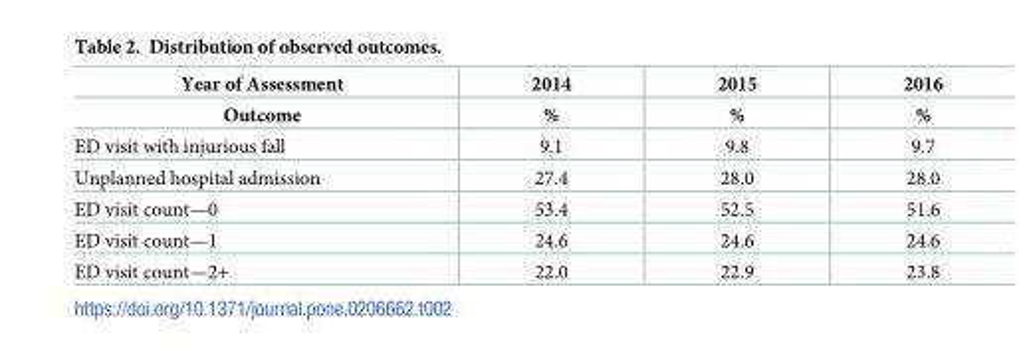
<table><thead><tr><td rowspan="2">Year of Assessment Outcome</td><td rowspan="2">2014 %</td><td rowspan="2">2015 %</td><td rowspan="2">2016 %</td></tr><tr></tr></thead><tbody><tr><td>ED visit with injurious fall</td><td>9.1</td><td>9.8</td><td>9.7</td></tr><tr><td>Unplanned hospital admission</td><td>27.4</td><td>28.0</td><td>28.0</td></tr><tr><td>ED visit count—0</td><td>53.4</td><td>52.5</td><td>51.6</td></tr><tr><td>ED visit count—1</td><td>24.6</td><td>24.6</td><td>24.6</td></tr><tr><td>ED visit count—2+</td><td>22.0</td><td>22.9</td><td>23.8</td></tr></tbody></table>